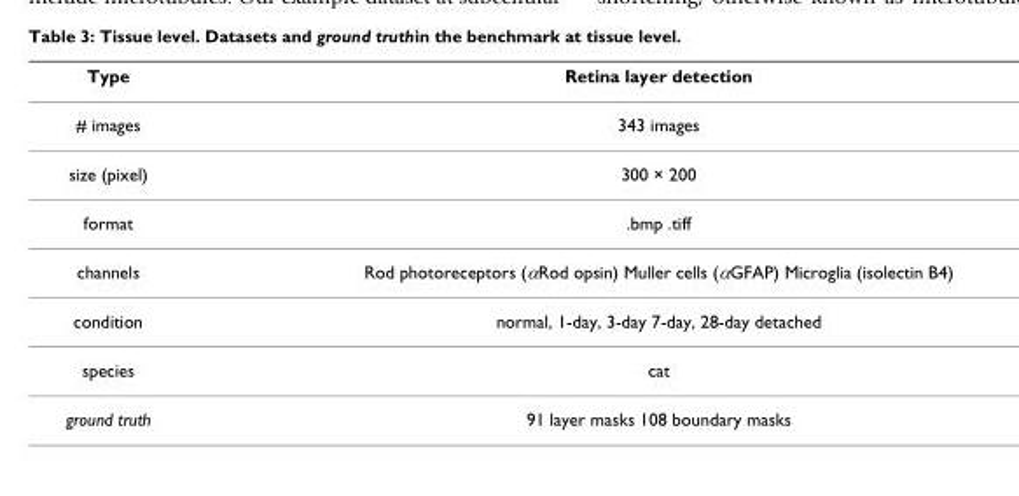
<table><thead><tr><td>Type</td><td>Retina layer detection</td></tr></thead><tbody><tr><td># images</td><td>343 images</td></tr><tr><td>size (pixel)</td><td>300 × 200</td></tr><tr><td>format</td><td>.bmp .tiff</td></tr><tr><td>channels</td><td>Rod photoreceptors (αRod opsin) Muller cells (αGFAP) Microglia (isolectin B4)</td></tr><tr><td>condition</td><td>normal, 1-day, 3-day 7-day, 28-day detached</td></tr><tr><td>species</td><td>cat</td></tr><tr><td>ground truth</td><td>91 layer masks 108 boundary masks</td></tr></tbody></table>